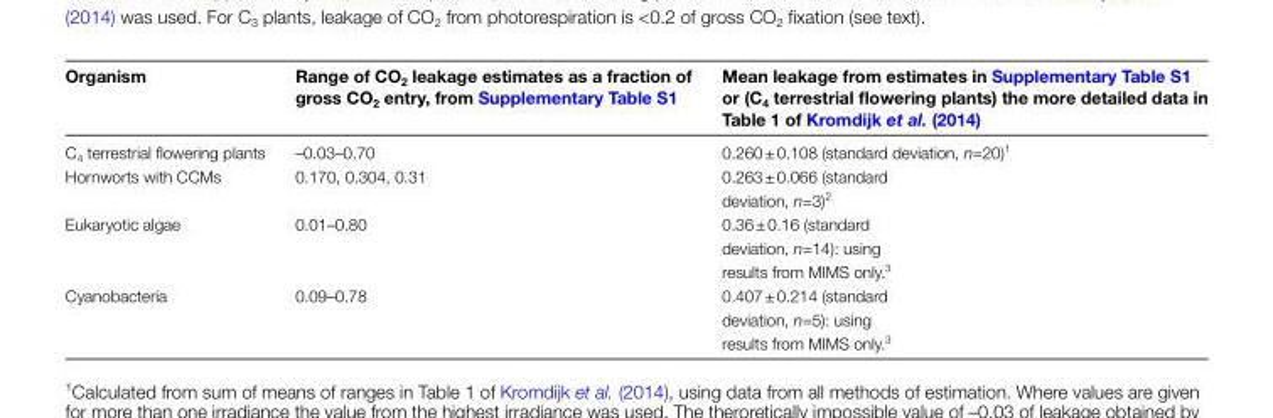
<table><thead><tr><td>Organism</td><td>Range of CO<sub>2</sub> leakage estimates as a fraction of gross CO<sub>2</sub> entry, from Supplementary Table S1</td><td>Mean leakage from estimates in Supplementary Table S1 or (C<sub>4</sub> terrestrial flowering plants) the more detailed data in Table 1 of Kromdijk et al. (2014)</td></tr></thead><tbody><tr><td>C<sub>4</sub> terrestrial flowering plants</td><td>–0.03–0.70</td><td>0.260 ± 0.108 (standard deviation, n=20)<sup>1</sup></td></tr><tr><td>Hornworts with CCMs</td><td>0.170, 0.304, 0.31</td><td>0.263 ± 0.066 (standard deviation, n=3)<sup>2</sup></td></tr><tr><td>Eukaryotic algae</td><td>0.01–0.80</td><td>0.36 ± 0.16 (standard deviation, n=14): using results from MIMS only.<sup>3</sup></td></tr><tr><td>Cyanobacteria</td><td>0.09–0.78</td><td>0.407 ± 0.214 (standard deviation, n=5): using results from MIMS only.<sup>3</sup></td></tr></tbody></table>